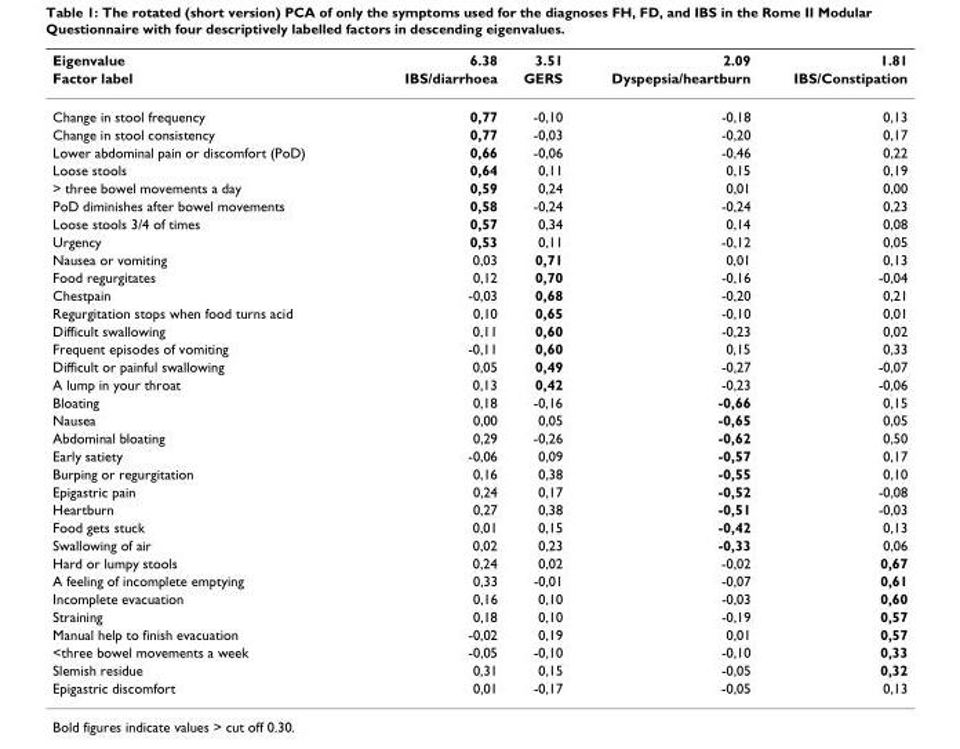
<table><thead><tr><td rowspan="2">Eigenvalue Factor label</td><td rowspan="2">6.38 IBS/diarrhoea</td><td rowspan="2">3.51 GERS</td><td rowspan="2">2.09 Dyspepsia/heartburn</td><td rowspan="2">1.81 IBS/Constipation</td></tr><tr></tr></thead><tbody><tr><td>Change in stool frequency</td><td>0,77</td><td>-0,10</td><td>-0,18</td><td>0,13</td></tr><tr><td>Change in stool consistency</td><td>0,77</td><td>-0,03</td><td>-0,20</td><td>0,17</td></tr><tr><td>Lower abdominal pain or discomfort (PoD)</td><td>0,66</td><td>-0,06</td><td>-0,46</td><td>0,22</td></tr><tr><td>Loose stools</td><td>0,64</td><td>0,11</td><td>0,15</td><td>0,19</td></tr><tr><td>&gt; three bowel movements a day</td><td>0,59</td><td>0,24</td><td>0,01</td><td>0,00</td></tr><tr><td>PoD diminishes after bowel movements</td><td>0,58</td><td>-0,24</td><td>-0,24</td><td>0,23</td></tr><tr><td>Loose stools 3/4 of times</td><td>0,57</td><td>0,34</td><td>0,14</td><td>0,08</td></tr><tr><td>Urgency</td><td>0,53</td><td>0,11</td><td>-0,12</td><td>0,05</td></tr><tr><td>Nausea or vomiting</td><td>0,03</td><td>0,71</td><td>0,01</td><td>0,13</td></tr><tr><td>Food regurgitates</td><td>0,12</td><td>0,70</td><td>-0,16</td><td>-0,04</td></tr><tr><td>Chestpain</td><td>-0,03</td><td>0,68</td><td>-0,20</td><td>0,21</td></tr><tr><td>Regurgitation stops when food turns acid</td><td>0,10</td><td>0,65</td><td>-0,10</td><td>0,01</td></tr><tr><td>Difficult swallowing</td><td>0,11</td><td>0,60</td><td>-0,23</td><td>0,02</td></tr><tr><td>Frequent episodes of vomiting</td><td>-0,11</td><td>0,60</td><td>0,15</td><td>0,33</td></tr><tr><td>Difficult or painful swallowing</td><td>0,05</td><td>0,49</td><td>-0,27</td><td>-0,07</td></tr><tr><td>A lump in your throat</td><td>0,13</td><td>0,42</td><td>-0,23</td><td>-0,06</td></tr><tr><td>Bloating</td><td>0,18</td><td>-0,16</td><td>-0,66</td><td>0,15</td></tr><tr><td>Nausea</td><td>0,00</td><td>0,05</td><td>-0,65</td><td>0,05</td></tr><tr><td>Abdominal bloating</td><td>0,29</td><td>-0,26</td><td>-0,62</td><td>0,50</td></tr><tr><td>Early satiety</td><td>-0,06</td><td>0,09</td><td>-0,57</td><td>0,17</td></tr><tr><td>Burping or regurgitation</td><td>0,16</td><td>0,38</td><td>-0,55</td><td>0,10</td></tr><tr><td>Epigastric pain</td><td>0,24</td><td>0,17</td><td>-0,52</td><td>-0,08</td></tr><tr><td>Heartburn</td><td>0,27</td><td>0,38</td><td>-0,51</td><td>-0,03</td></tr><tr><td>Food gets stuck</td><td>0,01</td><td>0,15</td><td>-0,42</td><td>0,13</td></tr><tr><td>Swallowing of air</td><td>0,02</td><td>0,23</td><td>-0,33</td><td>0,06</td></tr><tr><td>Hard or lumpy stools</td><td>0,24</td><td>0,02</td><td>-0,02</td><td>0,67</td></tr><tr><td>A feeling of incomplete emptying</td><td>0,33</td><td>-0,01</td><td>-0,07</td><td>0,61</td></tr><tr><td>Incomplete evacuation</td><td>0,16</td><td>0,10</td><td>-0,03</td><td>0,60</td></tr><tr><td>Straining</td><td>0,18</td><td>0,10</td><td>-0,19</td><td>0,57</td></tr><tr><td>Manual help to finish evacuation</td><td>-0,02</td><td>0,19</td><td>0,01</td><td>0,57</td></tr><tr><td>&lt;three bowel movements a week</td><td>-0,05</td><td>-0,10</td><td>-0,10</td><td>0,33</td></tr><tr><td>Slemish residue</td><td>0,31</td><td>0,15</td><td>-0,05</td><td>0,32</td></tr><tr><td>Epigastric discomfort</td><td>0,01</td><td>-0,17</td><td>-0,05</td><td>0,13</td></tr></tbody></table>